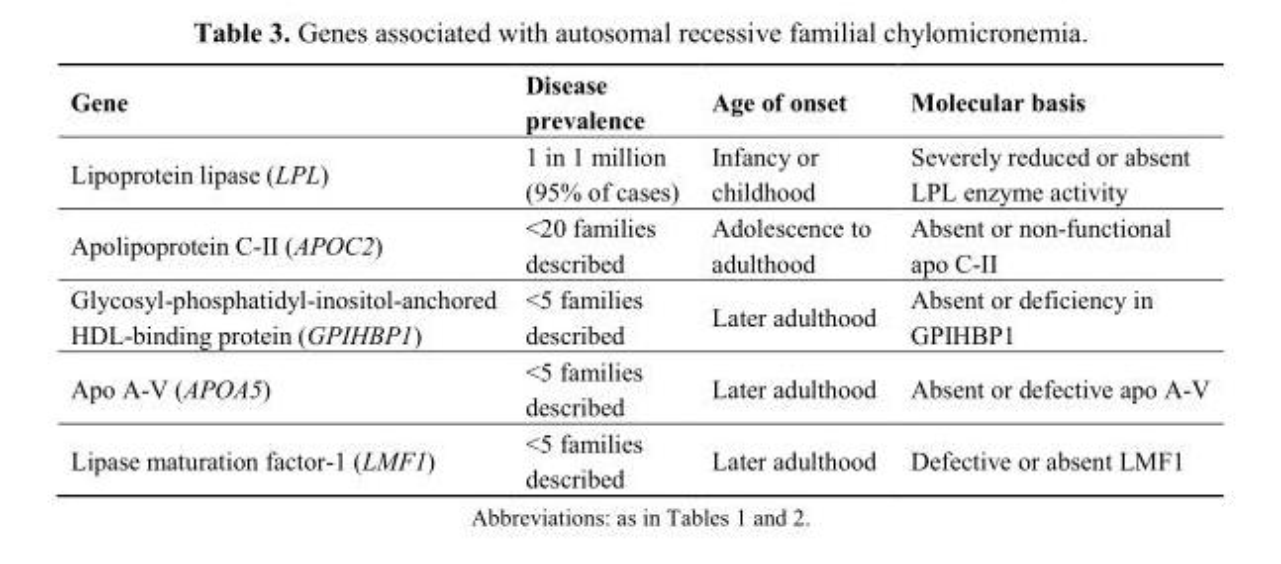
<table><thead><tr><td>Gene</td><td>Disease prevalence</td><td>Age of onset</td><td>Molecular basis</td></tr></thead><tbody><tr><td>Lipoprotein lipase (LPL)</td><td>1 in 1 million (95% of cases)</td><td>Infancy or childhood</td><td>Severely reduced or absent LPL enzyme activity</td></tr><tr><td>Apolipoprotein C-II (APOC2)</td><td>&lt;20 families described</td><td>Adolescence to adulthood</td><td>Absent or non-functional apo C-II</td></tr><tr><td>Glycosyl-phosphatidyl-inositol-anchored HDL-binding protein (GPIHBP1)</td><td>&lt;5 families described</td><td>Later adulthood</td><td>Absent or deficiency in GPIHBP1</td></tr><tr><td>Apo A-V (APOA5)</td><td>&lt;5 families described</td><td>Later adulthood</td><td>Absent or defective apo A-V</td></tr><tr><td>Lipase maturation factor-1 (LMF1)</td><td>&lt;5 families described</td><td>Later adulthood</td><td>Defective or absent LMF1</td></tr></tbody></table>